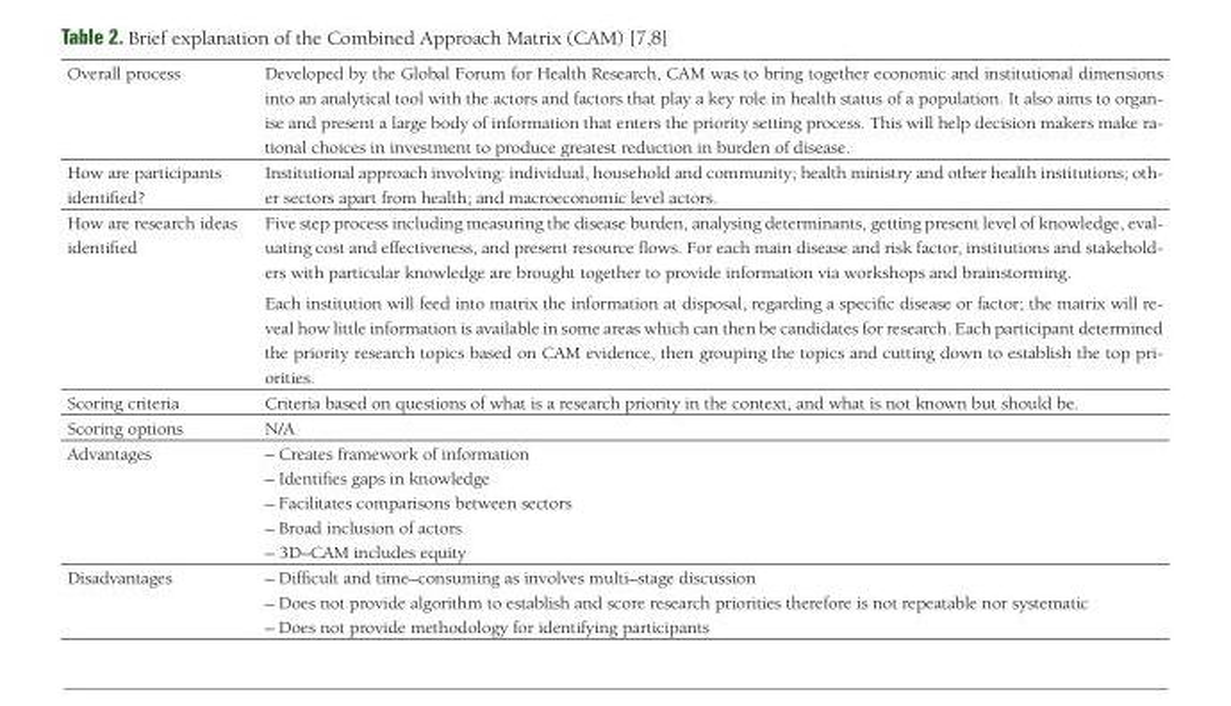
<table><tbody><tr><td>Overall process</td><td>Developed by the Global Forum for Health Research, CAM was to bring together economic and institutional dimensions into an analytical tool with the actors and factors that play a key role in health status of a population. It also aims to organ- ise and present a large body of information that enters the priority setting process. This will help decision makers make ra- tional choices in investment to produce greatest reduction in burden of disease.</td></tr><tr><td>How are participants identified?</td><td>Institutional approach involving: individual, household and community; health ministry and other health institutions; oth- er sectors apart from health; and macroeconomic level actors.</td></tr><tr><td>How are research ideas identified</td><td>Five step process including measuring the disease burden, analysing determinants, getting present level of knowledge, eval- uating cost and effectiveness, and present resource flows. For each main disease and risk factor, institutions and stakehold- ers with particular knowledge are brought together to provide information via workshops and brainstorming. Each institution will feed into matrix the information at disposal, regarding a specific disease or factor; the matrix will re- veal how little information is available in some areas which can then be candidates for research. Each participant determined the priority research topics based on CAM evidence, then grouping the topics and cutting down to establish the top pri- orities.</td></tr><tr><td>Scoring criteria</td><td>Criteria based on questions of what is a research priority in the context, and what is not known but should be.</td></tr><tr><td>Scoring options</td><td>N/A</td></tr><tr><td>Advantages</td><td>– Creates framework of information – Identifies gaps in knowledge – Facilitates comparisons between sectors – Broad inclusion of actors – 3D–CAM includes equity</td></tr><tr><td>Disadvantages</td><td>– Difficult and time–consuming as involves multi–stage discussion – Does not provide algorithm to establish and score research priorities therefore is not repeatable nor systematic – Does not provide methodology for identifying participants</td></tr></tbody></table>